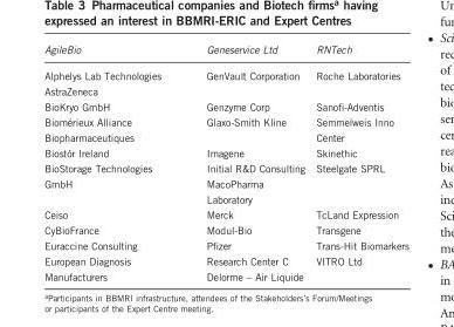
<table><thead><tr><td>AgileBio</td><td>Geneservice Ltd</td><td>RNTech</td></tr></thead><tbody><tr><td>Alphelys Lab Technologies AstraZeneca</td><td>GenVault Corporation</td><td>Roche Laboratories</td></tr><tr><td>BioKryo GmbH</td><td>Genzyme Corp</td><td>Sanofi-Adventis</td></tr><tr><td>Biomérieux Alliance Biopharmaceutiques</td><td>Glaxo-Smith Kline</td><td>Semmelweis Inno Center</td></tr><tr><td>Biostór Ireland</td><td>Imagene</td><td>Skinethic</td></tr><tr><td>BioStorage Technologies GmbH</td><td>Initial R&amp;D Consulting MacoPharma Laboratory</td><td>Steelgate SPRL</td></tr><tr><td>Ceiso</td><td>Merck</td><td>TcLand Expression</td></tr><tr><td>CyBioFrance</td><td>Modul-Bio</td><td>Transgene</td></tr><tr><td>Euraccine Consulting</td><td>Pfizer</td><td>Trans-Hit Biomarkers</td></tr><tr><td>European Diagnosis Manufacturers</td><td>Research Center C Delorme – Air Liquide</td><td>VITRO Ltd</td></tr></tbody></table>